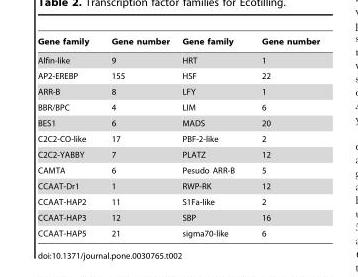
<table><thead><tr><td>Gene family</td><td>Gene number</td><td>Gene family</td><td>Gene number</td></tr></thead><tbody><tr><td>Alfin-like</td><td>9</td><td>HRT</td><td>1</td></tr><tr><td>AP2-EREBP</td><td>155</td><td>HSF</td><td>22</td></tr><tr><td>ARR-B</td><td>8</td><td>LFY</td><td>1</td></tr><tr><td>BBR/BPC</td><td>4</td><td>LIM</td><td>6</td></tr><tr><td>BES1</td><td>6</td><td>MADS</td><td>20</td></tr><tr><td>C2C2-CO-like</td><td>17</td><td>PBF-2-like</td><td>2</td></tr><tr><td>C2C2-YABBY</td><td>7</td><td>PLATZ</td><td>12</td></tr><tr><td>CAMTA</td><td>6</td><td>Pesudo ARR-B</td><td>5</td></tr><tr><td>CCAAT-Dr1</td><td>1</td><td>RWP-RK</td><td>12</td></tr><tr><td>CCAAT-HAP2</td><td>11</td><td>S1Fa-like</td><td>2</td></tr><tr><td>CCAAT-HAP3</td><td>12</td><td>SBP</td><td>16</td></tr><tr><td>CCAAT-HAP5</td><td>21</td><td>sigma70-like</td><td>6</td></tr></tbody></table>